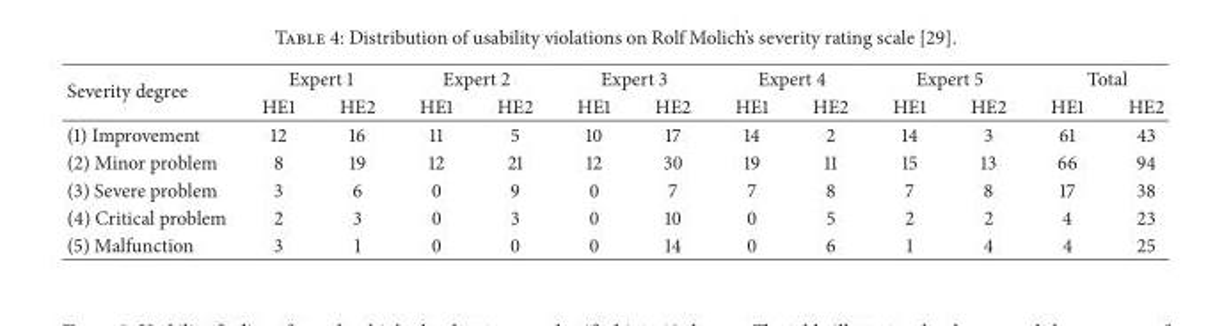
<table><thead><tr><td rowspan="2">Severity degree</td><td colspan="2">Expert 1</td><td colspan="2">Expert 2</td><td colspan="2">Expert 3</td><td colspan="2">Expert 4</td><td colspan="2">Expert 5</td><td colspan="2">Total</td></tr><tr><td>HE1</td><td>HE2</td><td>HE1</td><td>HE2</td><td>HE1</td><td>HE2</td><td>HE1</td><td>HE2</td><td>HE1</td><td>HE2</td><td>HE1</td><td>HE2</td></tr></thead><tbody><tr><td>(1) Improvement</td><td>12</td><td>16</td><td>11</td><td>5</td><td>10</td><td>17</td><td>14</td><td>2</td><td>14</td><td>3</td><td>61</td><td>43</td></tr><tr><td>(2) Minor problem</td><td>8</td><td>19</td><td>12</td><td>21</td><td>12</td><td>30</td><td>19</td><td>11</td><td>15</td><td>13</td><td>66</td><td>94</td></tr><tr><td>(3) Severe problem</td><td>3</td><td>6</td><td>0</td><td>9</td><td>0</td><td>7</td><td>7</td><td>8</td><td>7</td><td>8</td><td>17</td><td>38</td></tr><tr><td>(4) Critical problem</td><td>2</td><td>3</td><td>0</td><td>3</td><td>0</td><td>10</td><td>0</td><td>5</td><td>2</td><td>2</td><td>4</td><td>23</td></tr><tr><td>(5) Malfunction</td><td>3</td><td>1</td><td>0</td><td>0</td><td>0</td><td>14</td><td>0</td><td>6</td><td>1</td><td>4</td><td>4</td><td>25</td></tr></tbody></table>